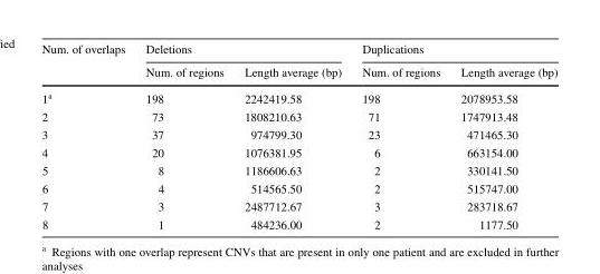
<table><thead><tr><td rowspan="2">Num. of overlaps</td><td colspan="2">Deletions</td><td colspan="2">Duplications</td></tr><tr><td>Num. of regions</td><td>Length average (bp)</td><td>Num. of regions</td><td>Length average (bp)</td></tr></thead><tbody><tr><td>1<sup>a</sup></td><td>198</td><td>2242419.58</td><td>198</td><td>2078953.58</td></tr><tr><td>2</td><td>73</td><td>1808210.63</td><td>71</td><td>1747913.48</td></tr><tr><td>3</td><td>37</td><td>974799.30</td><td>23</td><td>471465.30</td></tr><tr><td>4</td><td>20</td><td>1076381.95</td><td>6</td><td>663154.00</td></tr><tr><td>5</td><td>8</td><td>1186606.63</td><td>2</td><td>330141.50</td></tr><tr><td>6</td><td>4</td><td>514565.50</td><td>2</td><td>515747.00</td></tr><tr><td>7</td><td>3</td><td>2487712.67</td><td>3</td><td>283718.67</td></tr><tr><td>8</td><td>1</td><td>484236.00</td><td>2</td><td>1177.50</td></tr></tbody></table>